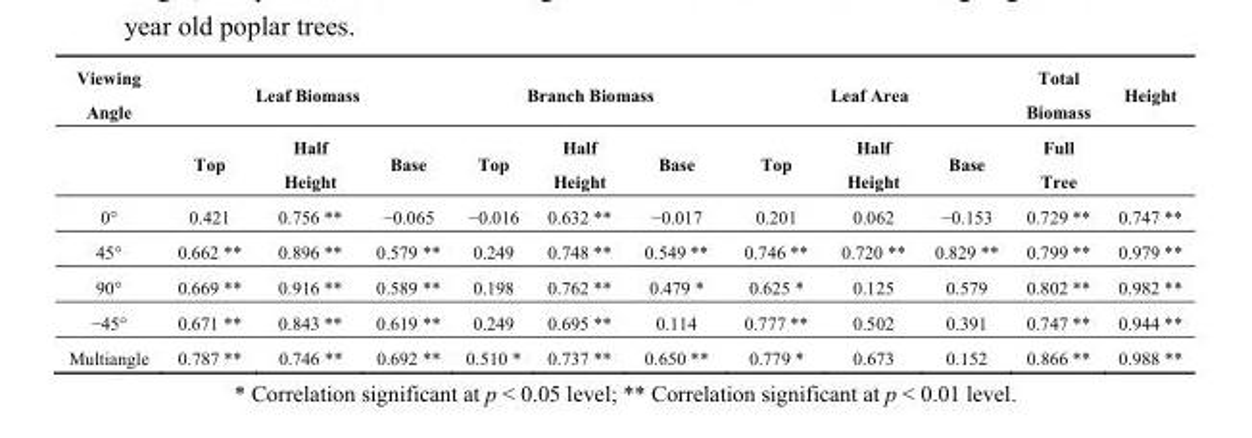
<table><thead><tr><td rowspan="2">Viewing Angle</td><td colspan="3">Leaf Biomass</td><td colspan="3">Branch Biomass</td><td colspan="3">Leaf Area</td><td rowspan="2">Total Biomass Full Tree</td><td rowspan="2">Height</td></tr><tr><td>Top</td><td>Half Height</td><td>Base</td><td>Top</td><td>Half Height</td><td>Base</td><td>Top</td><td>Half Height</td><td>Base</td></tr></thead><tbody><tr><td>0°</td><td>0.421</td><td>0.756 **</td><td>−0.065</td><td>−0.016</td><td>0.632 **</td><td>−0.017</td><td>0.201</td><td>0.062</td><td>−0.153</td><td>0.729 **</td><td>0.747 **</td></tr><tr><td>45°</td><td>0.662 **</td><td>0.896 **</td><td>0.579 **</td><td>0.249</td><td>0.748 **</td><td>0.549 **</td><td>0.746 **</td><td>0.720 **</td><td>0.829 **</td><td>0.799 **</td><td>0.979 **</td></tr><tr><td>90°</td><td>0.669 **</td><td>0.916 **</td><td>0.589 **</td><td>0.198</td><td>0.762 **</td><td>0.479 *</td><td>0.625 *</td><td>0.125</td><td>0.579</td><td>0.802 **</td><td>0.982 **</td></tr><tr><td>−45°</td><td>0.671 **</td><td>0.843 **</td><td>0.619 **</td><td>0.249</td><td>0.695 **</td><td>0.114</td><td>0.777 **</td><td>0.502</td><td>0.391</td><td>0.747 **</td><td>0.944 **</td></tr><tr><td>Multiangle</td><td>0.787 **</td><td>0.746 **</td><td>0.692 **</td><td>0.510 *</td><td>0.737 **</td><td>0.650 **</td><td>0.779 *</td><td>0.673</td><td>0.152</td><td>0.866 **</td><td>0.988 **</td></tr></tbody></table>